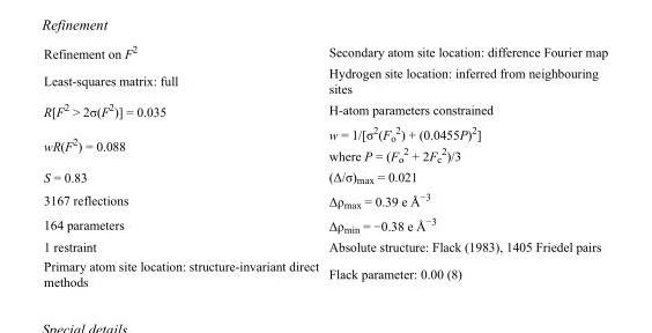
<table><tbody><tr><td>Refinement on F<sup>2</sup></td><td>Secondary atom site location: difference Fourier map</td></tr><tr><td>Least-squares matrix: full</td><td>Hydrogen site location: inferred from neighbouring sites</td></tr><tr><td>R[F<sup>2</sup> &gt; 2σ(F<sup>2</sup>)] = 0.035</td><td>H-atom parameters constrained</td></tr><tr><td>wR(F<sup>2</sup>) = 0.088</td><td>w = 1/[σ<sup>2</sup>(F<sub>o</sub> <sup>2</sup>) + (0.0455P)<sup>2</sup>] where P = (F<sub>o</sub> <sup>2</sup> + 2F<sub>c</sub> <sup>2</sup>)/3</td></tr><tr><td>S = 0.83</td><td>(Δ/σ)<sub>max</sub> = 0.021</td></tr><tr><td>3167 reflections</td><td>Δρ<sub>max</sub> = 0.39 e Å<sup>−3</sup></td></tr><tr><td>164 parameters</td><td>Δρ<sub>min</sub> = −0.38 e Å<sup>−3</sup></td></tr><tr><td>1 restraint</td><td>Absolute structure: Flack (1983), 1405 Friedel pairs</td></tr><tr><td>Primary atom site location: structure-invariant direct methods</td><td>Flack parameter: 0.00 (8)</td></tr></tbody></table>